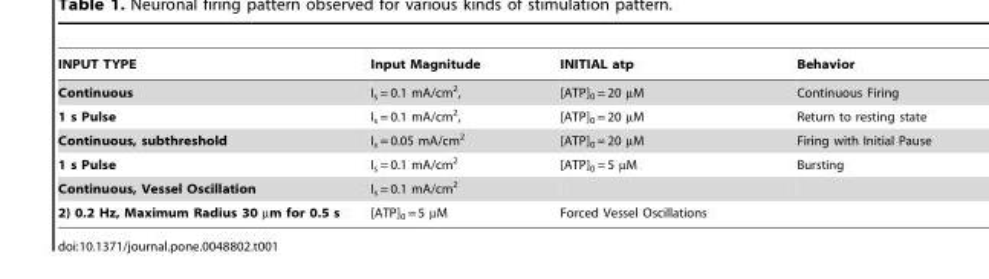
<table><thead><tr><td>INPUT TYPE</td><td>Input Magnitude</td><td>INITIAL atp</td><td>Behavior</td></tr></thead><tbody><tr><td>Continuous</td><td>I<sub>s</sub> = 0.1 mA/cm<sup>2</sup>,</td><td>[ATP]<sub>0</sub> = 20 µM</td><td>Continuous Firing</td></tr><tr><td>1 s Pulse</td><td>I<sub>s</sub> = 0.1 mA/cm<sup>2</sup>,</td><td>[ATP]<sub>0</sub> = 20 µM</td><td>Return to resting state</td></tr><tr><td>Continuous, subthreshold</td><td>I<sub>s</sub> = 0.05 mA/cm<sup>2</sup></td><td>[ATP]<sub>0</sub> = 20 µM</td><td>Firing with Initial Pause</td></tr><tr><td>1 s Pulse</td><td>I<sub>s</sub> = 0.1 mA/cm<sup>2</sup></td><td>[ATP]<sub>0</sub> = 5 µM</td><td>Bursting</td></tr><tr><td>Continuous, Vessel Oscillation</td><td>I<sub>s</sub> = 0.1 mA/cm<sup>2</sup></td><td></td><td></td></tr><tr><td>2) 0.2 Hz, Maximum Radius 30 µm for 0.5 s</td><td>[ATP]<sub>0</sub> = 5 µM</td><td>Forced Vessel Oscillations</td><td></td></tr></tbody></table>